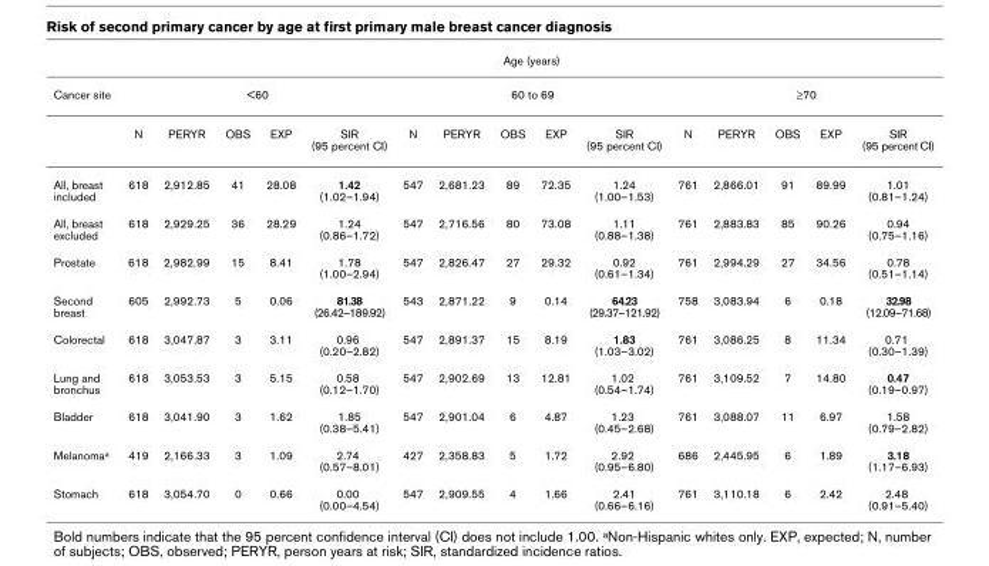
<table><thead><tr><td rowspan="3">Cancer site</td><td colspan="15">Age (years)</td></tr><tr><td colspan="5">&lt;60</td><td colspan="5">60 to 69</td><td colspan="5">≥70</td></tr><tr><td>N</td><td>PERYR</td><td>OBS</td><td>EXP</td><td>SIR (95 percent CI)</td><td>N</td><td>PERYR</td><td>OBS</td><td>EXP</td><td>SIR (95 percent CI)</td><td>N</td><td>PERYR</td><td>OBS</td><td>EXP</td><td>SIR (95 percent CI)</td></tr></thead><tbody><tr><td>All, breast included</td><td>618</td><td>2,912.85</td><td>41</td><td>28.08</td><td>1.42 (1.02–1.94)</td><td>547</td><td>2,681.23</td><td>89</td><td>72.35</td><td>1.24 (1.00–1.53)</td><td>761</td><td>2,866.01</td><td>91</td><td>89.99</td><td>1.01 (0.81–1.24)</td></tr><tr><td>All, breast excluded</td><td>618</td><td>2,929.25</td><td>36</td><td>28.29</td><td>1.24 (0.86–1.72)</td><td>547</td><td>2,716.56</td><td>80</td><td>73.08</td><td>1.11 (0.88–1.38)</td><td>761</td><td>2,883.83</td><td>85</td><td>90.26</td><td>0.94 (0.75–1.16)</td></tr><tr><td>Prostate</td><td>618</td><td>2,982.99</td><td>15</td><td>8.41</td><td>1.78 (1.00–2.94)</td><td>547</td><td>2,826.47</td><td>27</td><td>29.32</td><td>0.92 (0.61–1.34)</td><td>761</td><td>2,994.29</td><td>27</td><td>34.56</td><td>0.78 (0.51–1.14)</td></tr><tr><td>Second breast</td><td>605</td><td>2,992.73</td><td>5</td><td>0.06</td><td>81.38 (26.42–189.92)</td><td>543</td><td>2,871.22</td><td>9</td><td>0.14</td><td>64.23 (29.37–121.92)</td><td>758</td><td>3,083.94</td><td>6</td><td>0.18</td><td>32.98 (12.09–71.68)</td></tr><tr><td>Colorectal</td><td>618</td><td>3,047.87</td><td>3</td><td>3.11</td><td>0.96 (0.20–2.82)</td><td>547</td><td>2,891.37</td><td>15</td><td>8.19</td><td>1.83 (1.03–3.02)</td><td>761</td><td>3,086.25</td><td>8</td><td>11.34</td><td>0.71 (0.30–1.39)</td></tr><tr><td>Lung and bronchus</td><td>618</td><td>3,053.53</td><td>3</td><td>5.15</td><td>0.58 (0.12–1.70)</td><td>547</td><td>2,902.69</td><td>13</td><td>12.81</td><td>1.02 (0.54–1.74)</td><td>761</td><td>3,109.52</td><td>7</td><td>14.80</td><td>0.47 (0.19–0.97)</td></tr><tr><td>Bladder</td><td>618</td><td>3,041.90</td><td>3</td><td>1.62</td><td>1.85 (0.38–5.41)</td><td>547</td><td>2,901.04</td><td>6</td><td>4.87</td><td>1.23 (0.45–2.68)</td><td>761</td><td>3,088.07</td><td>11</td><td>6.97</td><td>1.58 (0.79–2.82)</td></tr><tr><td>Melanomaa</td><td>419</td><td>2,166.33</td><td>3</td><td>1.09</td><td>2.74 (0.57–8.01)</td><td>427</td><td>2,358.83</td><td>5</td><td>1.72</td><td>2.92 (0.95–6.80)</td><td>686</td><td>2,445.95</td><td>6</td><td>1.89</td><td>3.18 (1.17–6.93)</td></tr><tr><td>Stomach</td><td>618</td><td>3,054.70</td><td>0</td><td>0.66</td><td>0.00 (0.00–4.54)</td><td>547</td><td>2,909.55</td><td>4</td><td>1.66</td><td>2.41 (0.66–6.16)</td><td>761</td><td>3,110.18</td><td>6</td><td>2.42</td><td>2.48 (0.91–5.40)</td></tr></tbody></table>